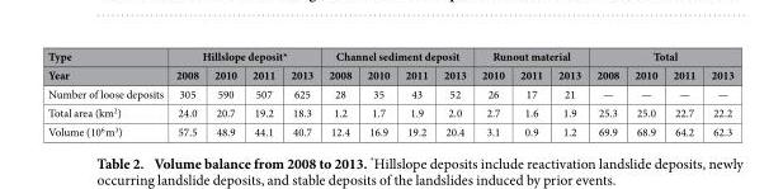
<table><thead><tr><td rowspan="2">Type Year</td><td colspan="4">Hillslope deposit*</td><td colspan="4">Channel sediment deposit</td><td colspan="3">Runout material</td><td colspan="4">Total</td></tr><tr><td>2008</td><td>2010</td><td>2011</td><td>2013</td><td>2008</td><td>2010</td><td>2011</td><td>2013</td><td>2010</td><td>2011</td><td>2013</td><td>2008</td><td>2010</td><td>2011</td><td>2013</td></tr></thead><tbody><tr><td>Number of loose deposits</td><td>305</td><td>590</td><td>507</td><td>625</td><td>28</td><td>35</td><td>43</td><td>52</td><td>26</td><td>17</td><td>21</td><td>—</td><td>—</td><td>—</td><td>—</td></tr><tr><td>Total area (km<sup>2</sup>)</td><td>24.0</td><td>20.7</td><td>19.2</td><td>18.3</td><td>1.2</td><td>1.7</td><td>1.9</td><td>2.0</td><td>2.7</td><td>1.6</td><td>1.9</td><td>25.3</td><td>25.0</td><td>22.7</td><td>22.2</td></tr><tr><td>Volume (10<sup>6</sup> m<sup>3</sup>)</td><td>57.5</td><td>48.9</td><td>44.1</td><td>40.7</td><td>12.4</td><td>16.9</td><td>19.2</td><td>20.4</td><td>3.1</td><td>0.9</td><td>1.2</td><td>69.9</td><td>68.9</td><td>64.2</td><td>62.3</td></tr></tbody></table>